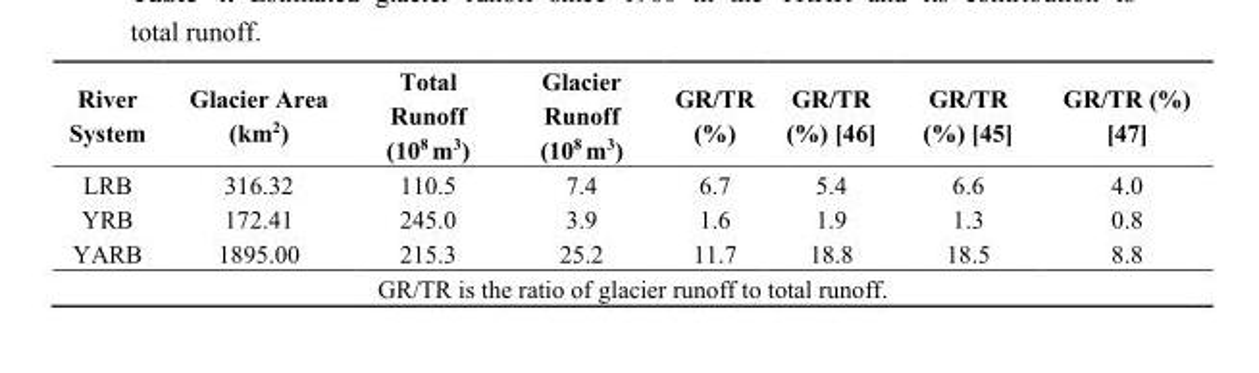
<table><thead><tr><td>River System</td><td>Glacier Area (km<sup>2</sup>)</td><td>Total Runoff (10<sup>8</sup> m<sup>3</sup>)</td><td>Glacier Runoff (10<sup>8</sup> m<sup>3</sup>)</td><td>GR/TR (%)</td><td>GR/TR (%) [46]</td><td>GR/TR (%) [45]</td><td>GR/TR (%) [47]</td></tr></thead><tbody><tr><td>LRB</td><td>316.32</td><td>110.5</td><td>7.4</td><td>6.7</td><td>5.4</td><td>6.6</td><td>4.0</td></tr><tr><td>YRB</td><td>172.41</td><td>245.0</td><td>3.9</td><td>1.6</td><td>1.9</td><td>1.3</td><td>0.8</td></tr><tr><td>YARB</td><td>1895.00</td><td>215.3</td><td>25.2</td><td>11.7</td><td>18.8</td><td>18.5</td><td>8.8</td></tr><tr><td colspan="8">GR/TR is the ratio of glacier runoff to total runoff.</td></tr></tbody></table>